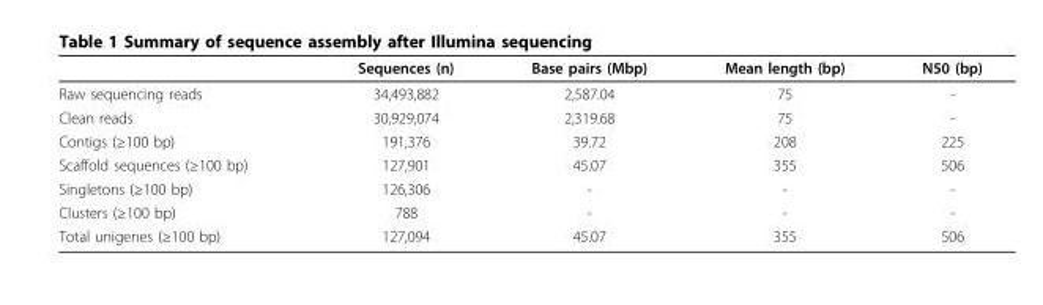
<table><thead><tr><td></td><td>Sequences (n)</td><td>Base pairs (Mbp)</td><td>Mean length (bp)</td><td>N50 (bp)</td></tr></thead><tbody><tr><td>Raw sequencing reads</td><td>34,493,882</td><td>2,587.04</td><td>75</td><td>-</td></tr><tr><td>Clean reads</td><td>30,929,074</td><td>2,319.68</td><td>75</td><td>-</td></tr><tr><td>Contigs (≥100 bp)</td><td>191,376</td><td>39.72</td><td>208</td><td>225</td></tr><tr><td>Scaffold sequences (≥100 bp)</td><td>127,901</td><td>45.07</td><td>355</td><td>506</td></tr><tr><td>Singletons (≥100 bp)</td><td>126,306</td><td>-</td><td>-</td><td>-</td></tr><tr><td>Clusters (≥100 bp)</td><td>788</td><td>-</td><td>-</td><td>-</td></tr><tr><td>Total unigenes (≥100 bp)</td><td>127,094</td><td>45.07</td><td>355</td><td>506</td></tr></tbody></table>